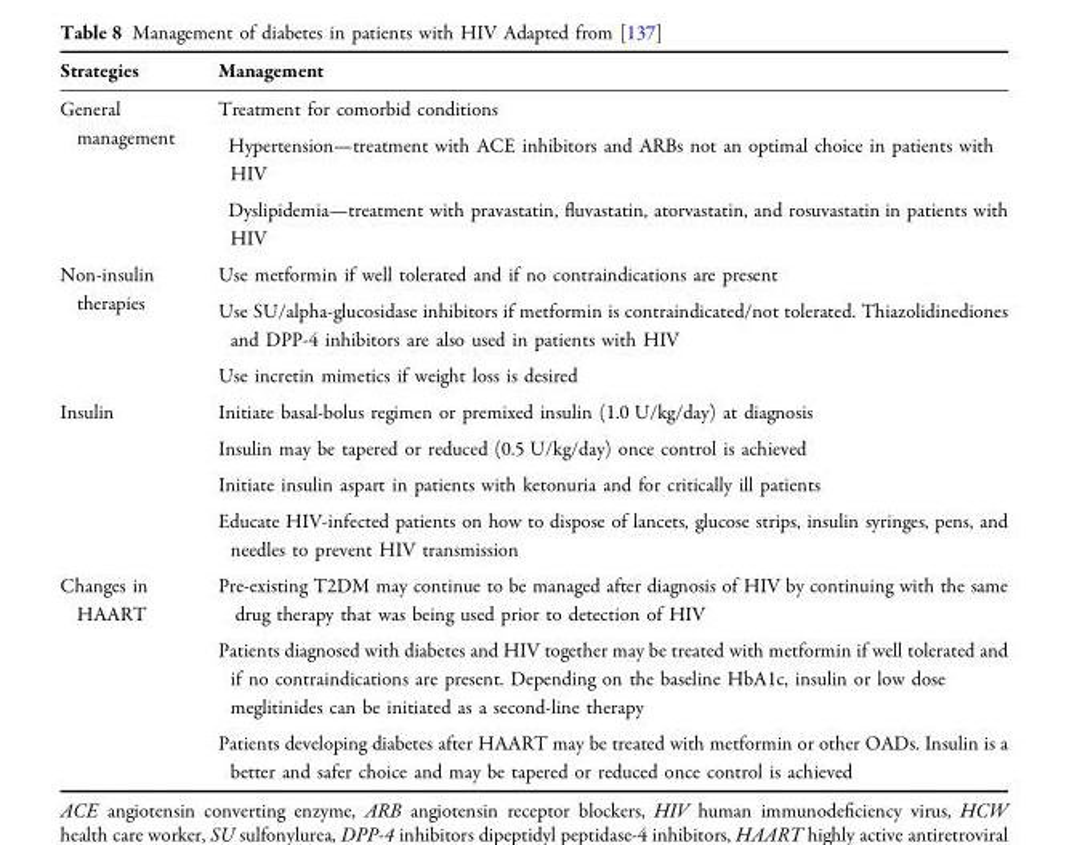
<table><thead><tr><td>Strategies</td><td>Management</td></tr></thead><tbody><tr><td>General management</td><td>Treatment for comorbid conditions Hypertension—treatment with ACE inhibitors and ARBs not an optimal choice in patients with HIV Dyslipidemia—treatment with pravastatin, fluvastatin, atorvastatin, and rosuvastatin in patients with HIV</td></tr><tr><td>Non-insulin therapies</td><td>Use metformin if well tolerated and if no contraindications are present Use SU/alpha-glucosidase inhibitors if metformin is contraindicated/not tolerated. Thiazolidinediones and DPP-4 inhibitors are also used in patients with HIV Use incretin mimetics if weight loss is desired</td></tr><tr><td>Insulin</td><td>Initiate basal-bolus regimen or premixed insulin (1.0 U/kg/day) at diagnosis Insulin may be tapered or reduced (0.5 U/kg/day) once control is achieved Initiate insulin aspart in patients with ketonuria and for critically ill patients Educate HIV-infected patients on how to dispose of lancets, glucose strips, insulin syringes, pens, and needles to prevent HIV transmission</td></tr><tr><td>Changes in HAART</td><td>Pre-existing T2DM may continue to be managed after diagnosis of HIV by continuing with the same drug therapy that was being used prior to detection of HIV Patients diagnosed with diabetes and HIV together may be treated with metformin if well tolerated and if no contraindications are present. Depending on the baseline HbA1c, insulin or low dose meglitinides can be initiated as a second-line therapy Patients developing diabetes after HAART may be treated with metformin or other OADs. Insulin is a better and safer choice and may be tapered or reduced once control is achieved</td></tr></tbody></table>